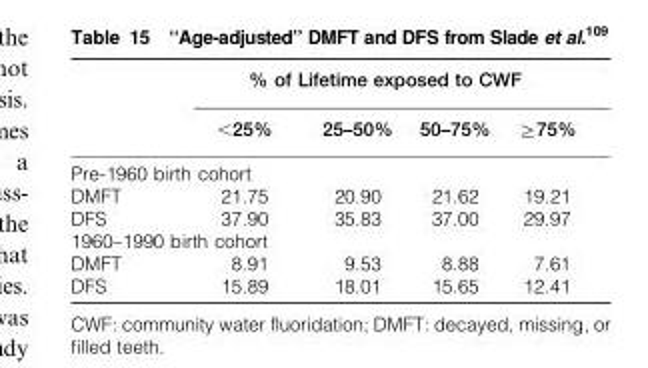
<table><thead><tr><td rowspan="2"></td><td colspan="4">% of Lifetime exposed to CWF</td></tr><tr><td>&lt;25%</td><td>25–50%</td><td>50–75%</td><td>≧75%</td></tr></thead><tbody><tr><td colspan="5">Pre-1960 birth cohort</td></tr><tr><td>DMFT</td><td>21.75</td><td>20.90</td><td>21.62</td><td>19.21</td></tr><tr><td>DFS</td><td>37.90</td><td>35.83</td><td>37.00</td><td>29.97</td></tr><tr><td colspan="5">1960–1990 birth cohort</td></tr><tr><td>DMFT</td><td>8.91</td><td>9.53</td><td>8.88</td><td>7.61</td></tr><tr><td>DFS</td><td>15.89</td><td>18.01</td><td>15.65</td><td>12.41</td></tr></tbody></table>